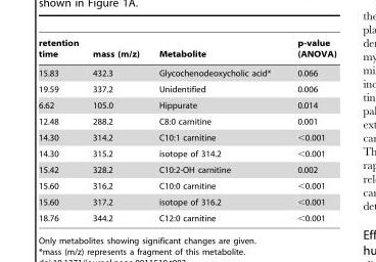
<table><thead><tr><td>retention time</td><td>mass (m/z)</td><td>Metabolite</td><td>p-value (ANOVA)</td></tr></thead><tbody><tr><td>15.83</td><td>432.3</td><td>Glycochenodeoxycholic acid*</td><td>0.066</td></tr><tr><td>19.59</td><td>337.2</td><td>Unidentified</td><td>0.006</td></tr><tr><td>6.62</td><td>105.0</td><td>Hippurate</td><td>0.014</td></tr><tr><td>12.48</td><td>288.2</td><td>C8:0 carnitine</td><td>0.001</td></tr><tr><td>14.30</td><td>314.2</td><td>C10:1 carnitine</td><td>&lt;0.001</td></tr><tr><td>14.30</td><td>315.2</td><td>isotope of 314.2</td><td>&lt;0.001</td></tr><tr><td>15.42</td><td>328.2</td><td>C10:2-OH carnitine</td><td>0.002</td></tr><tr><td>15.60</td><td>316.2</td><td>C10:0 carnitine</td><td>&lt;0.001</td></tr><tr><td>15.60</td><td>317.2</td><td>isotope of 316.2</td><td>&lt;0.001</td></tr><tr><td>18.76</td><td>344.2</td><td>C12:0 carnitine</td><td>&lt;0.001</td></tr></tbody></table>